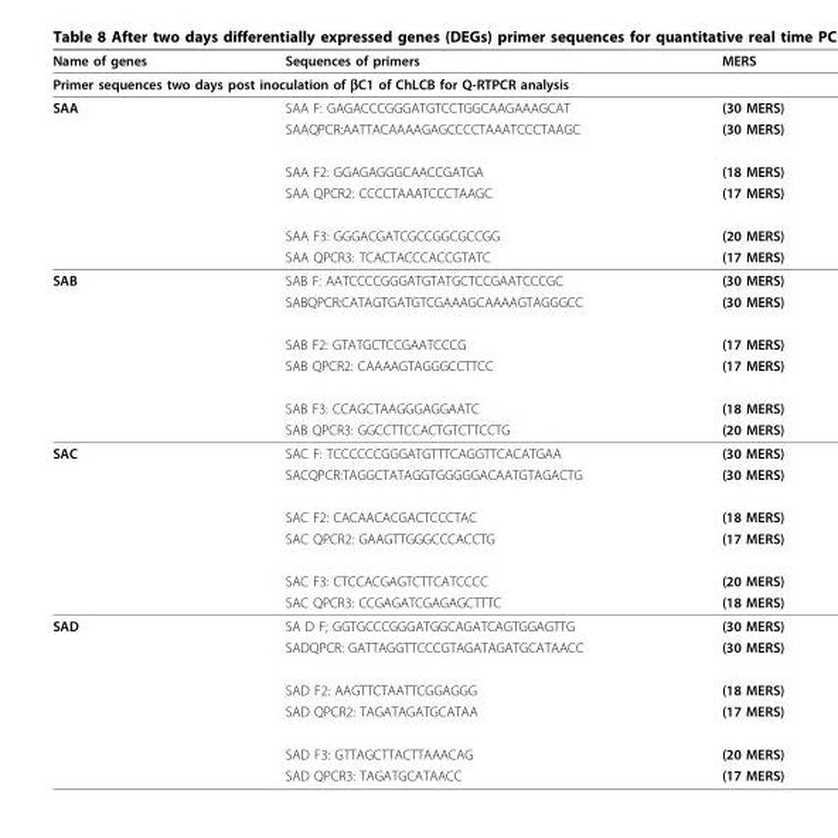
<table><thead><tr><td>Name of genes</td><td>Sequences of primers</td><td>MERS</td></tr></thead><tbody><tr><td colspan="3">Primer sequences two days post inoculation of βC1 of ChLCB for Q-RTPCR analysis</td></tr><tr><td rowspan="6">SAA</td><td>SAA F: GAGACCCGGGATGTCCTGGCAAGAAAGCAT</td><td>(30 MERS)</td></tr><tr><td>SAAQPCR:AATTACAAAAGAGCCCCTAAATCCCTAAGC</td><td>(30 MERS)</td></tr><tr><td>SAA F2: GGAGAGGGCAACCGATGA</td><td>(18 MERS)</td></tr><tr><td>SAA QPCR2: CCCCTAAATCCCTAAGC</td><td>(17 MERS)</td></tr><tr><td>SAA F3: GGGACGATCGCCGGCGCCGG</td><td>(20 MERS)</td></tr><tr><td>SAA QPCR3: TCACTACCCACCGTATC</td><td>(17 MERS)</td></tr><tr><td rowspan="6">SAB</td><td>SAB F: AATCCCCGGGATGTATGCTCCGAATCCCGC</td><td>(30 MERS)</td></tr><tr><td>SABQPCR:CATAGTGATGTCGAAAGCAAAAGTAGGGCC</td><td>(30 MERS)</td></tr><tr><td>SAB F2: GTATGCTCCGAATCCCG</td><td>(17 MERS)</td></tr><tr><td>SAB QPCR2: CAAAAGTAGGGCCTTCC</td><td>(17 MERS)</td></tr><tr><td>SAB F3: CCAGCTAAGGGAGGAATC</td><td>(18 MERS)</td></tr><tr><td>SAB QPCR3: GGCCTTCCACTGTCTTCCTG</td><td>(20 MERS)</td></tr><tr><td rowspan="6">SAC</td><td>SAC F: TCCCCCCGGGATGTTTCAGGTTCACATGAA</td><td>(30 MERS)</td></tr><tr><td>SACQPCR:TAGGCTATAGGTGGGGGACAATGTAGACTG</td><td>(30 MERS)</td></tr><tr><td>SAC F2: CACAACACGACTCCCTAC</td><td>(18 MERS)</td></tr><tr><td>SAC QPCR2: GAAGTTGGGCCCACCTG</td><td>(17 MERS)</td></tr><tr><td>SAC F3: CTCCACGAGTCTTCATCCCC</td><td>(20 MERS)</td></tr><tr><td>SAC QPCR3: CCGAGATCGAGAGCTTTC</td><td>(18 MERS)</td></tr><tr><td rowspan="6">SAD</td><td>SA D F; GGTGCCCGGGATGGCAGATCAGTGGAGTTG</td><td>(30 MERS)</td></tr><tr><td>SADQPCR: GATTAGGTTCCCGTAGATAGATGCATAACC</td><td>(30 MERS)</td></tr><tr><td>SAD F2: AAGTTCTAATTCGGAGGG</td><td>(18 MERS)</td></tr><tr><td>SAD QPCR2: TAGATAGATGCATAA</td><td>(17 MERS)</td></tr><tr><td>SAD F3: GTTAGCTTACTTAAACAG</td><td>(20 MERS)</td></tr><tr><td>SAD QPCR3: TAGATGCATAACC</td><td>(17 MERS)</td></tr></tbody></table>